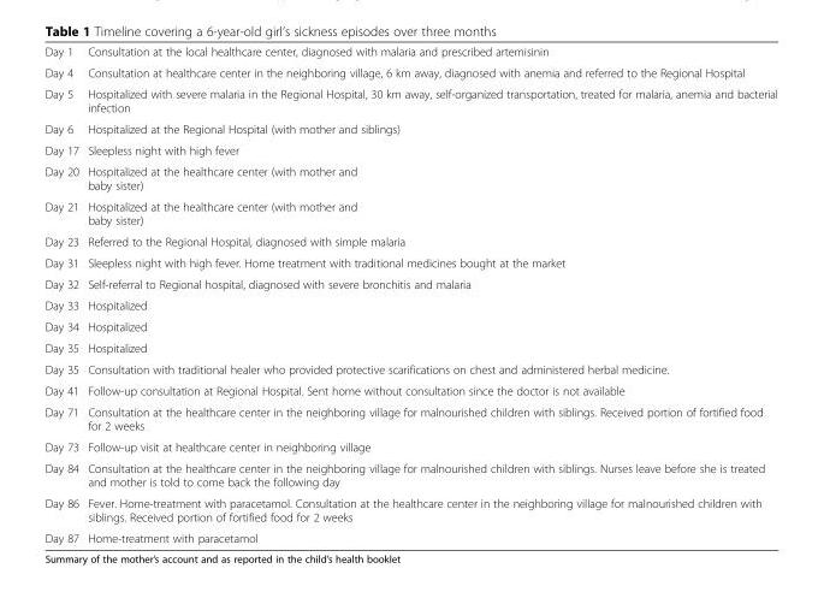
<table><tbody><tr><td>Day 1</td><td>Consultation at the local healthcare center, diagnosed with malaria and prescribed artemisinin</td></tr><tr><td>Day 4</td><td>Consultation at healthcare center in the neighboring village, 6 km away, diagnosed with anemia and referred to the Regional Hospital</td></tr><tr><td>Day 5</td><td>Hospitalized with severe malaria in the Regional Hospital, 30 km away, self-organized transportation, treated for malaria, anemia and bacterial infection</td></tr><tr><td>Day 6</td><td>Hospitalized at the Regional Hospital (with mother and siblings)</td></tr><tr><td>Day 17</td><td>Sleepless night with high fever</td></tr><tr><td>Day 20</td><td>Hospitalized at the healthcare center (with mother and baby sister)</td></tr><tr><td>Day 21</td><td>Hospitalized at the healthcare center (with mother and baby sister)</td></tr><tr><td>Day 23</td><td>Referred to the Regional Hospital, diagnosed with simple malaria</td></tr><tr><td>Day 31</td><td>Sleepless night with high fever. Home treatment with traditional medicines bought at the market</td></tr><tr><td>Day 32</td><td>Self-referral to Regional hospital, diagnosed with severe bronchitis and malaria</td></tr><tr><td>Day 33</td><td>Hospitalized</td></tr><tr><td>Day 34</td><td>Hospitalized</td></tr><tr><td>Day 35</td><td>Hospitalized</td></tr><tr><td>Day 35</td><td>Consultation with traditional healer who provided protective scarifications on chest and administered herbal medicine.</td></tr><tr><td>Day 41</td><td>Follow-up consultation at Regional Hospital. Sent home without consultation since the doctor is not available</td></tr><tr><td>Day 71</td><td>Consultation at the healthcare center in the neighboring village for malnourished children with siblings. Received portion of fortified food for 2 weeks</td></tr><tr><td>Day 73</td><td>Follow-up visit at healthcare center in neighboring village</td></tr><tr><td>Day 84</td><td>Consultation at the healthcare center in the neighboring village for malnourished children with siblings. Nurses leave before she is treated and mother is told to come back the following day</td></tr><tr><td>Day 86</td><td>Fever. Home-treatment with paracetamol. Consultation at the healthcare center in the neighboring village for malnourished children with siblings. Received portion of fortified food for 2 weeks</td></tr><tr><td>Day 87</td><td>Home-treatment with paracetamol</td></tr></tbody></table>